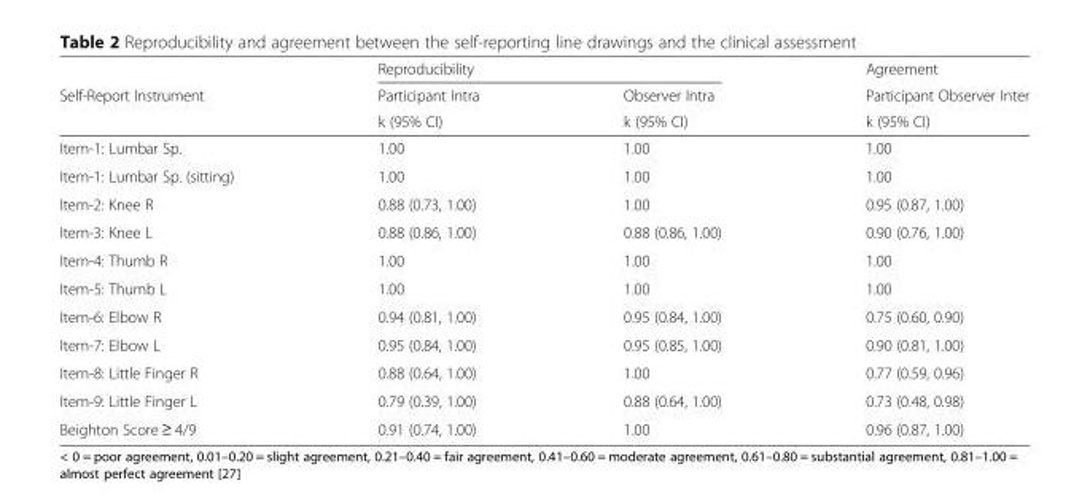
<table><thead><tr><td rowspan="3">Self-Report Instrument</td><td colspan="2">Reproducibility</td><td rowspan="3">Agreement Participant Observer Inter k (95% CI)</td></tr><tr><td rowspan="2">Participant Intra k (95% CI)</td><td rowspan="2">Observer Intra k (95% CI)</td></tr><tr></tr></thead><tbody><tr><td>Item-1: Lumbar Sp.</td><td>1.00</td><td>1.00</td><td>1.00</td></tr><tr><td>Item-1: Lumbar Sp. (sitting)</td><td>1.00</td><td>1.00</td><td>1.00</td></tr><tr><td>Item-2: Knee R</td><td>0.88 (0.73, 1.00)</td><td>1.00</td><td>0.95 (0.87, 1.00)</td></tr><tr><td>Item-3: Knee L</td><td>0.88 (0.86, 1.00)</td><td>0.88 (0.86, 1.00)</td><td>0.90 (0.76, 1.00)</td></tr><tr><td>Item-4: Thumb R</td><td>1.00</td><td>1.00</td><td>1.00</td></tr><tr><td>Item-5: Thumb L</td><td>1.00</td><td>1.00</td><td>1.00</td></tr><tr><td>Item-6: Elbow R</td><td>0.94 (0.81, 1.00)</td><td>0.95 (0.84, 1.00)</td><td>0.75 (0.60, 0.90)</td></tr><tr><td>Item-7: Elbow L</td><td>0.95 (0.84, 1.00)</td><td>0.95 (0.85, 1.00)</td><td>0.90 (0.81, 1.00)</td></tr><tr><td>Item-8: Little Finger R</td><td>0.88 (0.64, 1.00)</td><td>1.00</td><td>0.77 (0.59, 0.96)</td></tr><tr><td>Item-9: Little Finger L</td><td>0.79 (0.39, 1.00)</td><td>0.88 (0.64, 1.00)</td><td>0.73 (0.48, 0.98)</td></tr><tr><td>Beighton Score ≥ 4/9</td><td>0.91 (0.74, 1.00)</td><td>1.00</td><td>0.96 (0.87, 1.00)</td></tr></tbody></table>